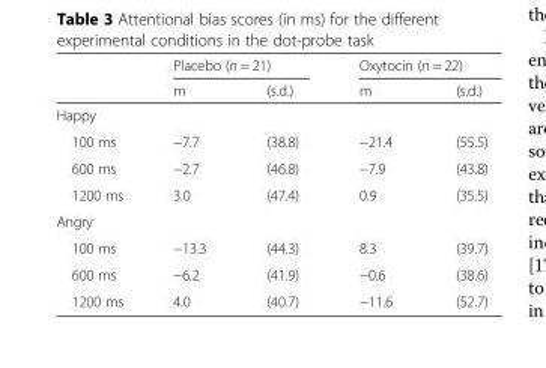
<table><thead><tr><td rowspan="2"></td><td colspan="2">Placebo (n = 21)</td><td colspan="2">Oxytocin (n = 22)</td></tr><tr><td>m</td><td>(s.d.)</td><td>m</td><td>(s.d.)</td></tr></thead><tbody><tr><td colspan="5">Happy</td></tr><tr><td>100 ms</td><td>−7.7</td><td>(38.8)</td><td>−21.4</td><td>(55.5)</td></tr><tr><td>600 ms</td><td>−2.7</td><td>(46.8)</td><td>−7.9</td><td>(43.8)</td></tr><tr><td>1200 ms</td><td>3.0</td><td>(47.4)</td><td>0.9</td><td>(35.5)</td></tr><tr><td colspan="5">Angry</td></tr><tr><td>100 ms</td><td>−13.3</td><td>(44.3)</td><td>8.3</td><td>(39.7)</td></tr><tr><td>600 ms</td><td>−6.2</td><td>(41.9)</td><td>−0.6</td><td>(38.6)</td></tr><tr><td>1200 ms</td><td>4.0</td><td>(40.7)</td><td>−11.6</td><td>(52.7)</td></tr></tbody></table>